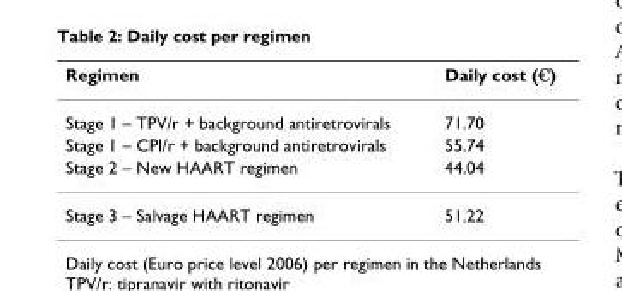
<table><thead><tr><td>Regimen</td><td>Daily cost (€)</td></tr></thead><tbody><tr><td>Stage 1 – TPV/r + background antiretrovirals</td><td>71.70</td></tr><tr><td>Stage 1 – CPI/r + background antiretrovirals</td><td>55.74</td></tr><tr><td>Stage 2 – New HAART regimen</td><td>44.04</td></tr><tr><td>Stage 3 – Salvage HAART regimen</td><td>51.22</td></tr></tbody></table>